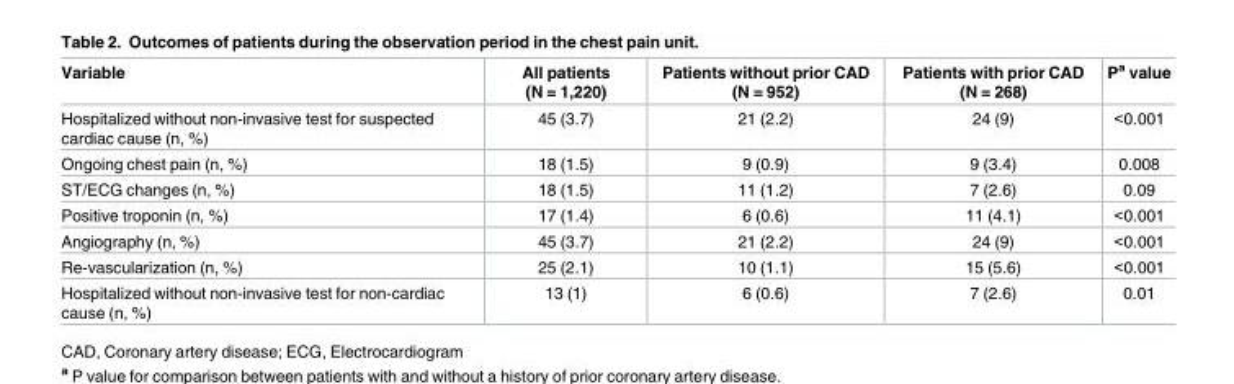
<table><thead><tr><td>Variable</td><td>All patients (N = 1,220)</td><td>Patients without prior CAD (N = 952)</td><td>Patients with prior CAD (N = 268)</td><td>P<sup>a</sup> value</td></tr></thead><tbody><tr><td>Hospitalized without non-invasive test for suspected cardiac cause (n, %)</td><td>45 (3.7)</td><td>21 (2.2)</td><td>24 (9)</td><td>&lt;0.001</td></tr><tr><td>Ongoing chest pain (n, %)</td><td>18 (1.5)</td><td>9 (0.9)</td><td>9 (3.4)</td><td>0.008</td></tr><tr><td>ST/ECG changes (n, %)</td><td>18 (1.5)</td><td>11 (1.2)</td><td>7 (2.6)</td><td>0.09</td></tr><tr><td>Positive troponin (n, %)</td><td>17 (1.4)</td><td>6 (0.6)</td><td>11 (4.1)</td><td>&lt;0.001</td></tr><tr><td>Angiography (n, %)</td><td>45 (3.7)</td><td>21 (2.2)</td><td>24 (9)</td><td>&lt;0.001</td></tr><tr><td>Re-vascularization (n, %)</td><td>25 (2.1)</td><td>10 (1.1)</td><td>15 (5.6)</td><td>&lt;0.001</td></tr><tr><td>Hospitalized without non-invasive test for non-cardiac cause (n, %)</td><td>13 (1)</td><td>6 (0.6)</td><td>7 (2.6)</td><td>0.01</td></tr></tbody></table>